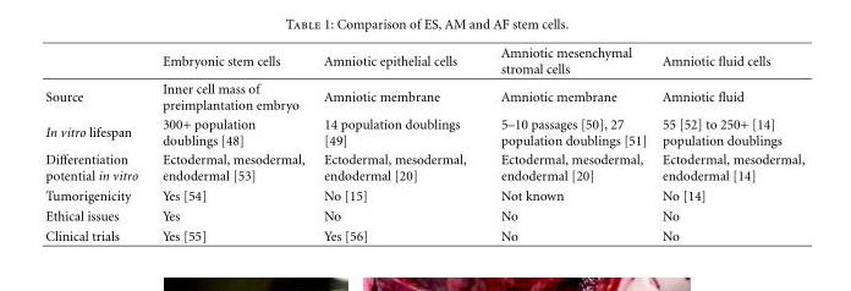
<table><thead><tr><td></td><td>Embryonic stem cells</td><td>Amniotic epithelial cells</td><td>Amniotic mesenchymal stromal cells</td><td>Amniotic fluid cells</td></tr></thead><tbody><tr><td>Source</td><td>Inner cell mass of preimplantation embryo</td><td>Amniotic membrane</td><td>Amniotic membrane</td><td>Amniotic fluid</td></tr><tr><td>In vitro lifespan</td><td>300+ population doublings [48]</td><td>14 population doublings [49]</td><td>5–10 passages [50], 27 population doublings [51]</td><td>55 [52] to 250+ [14] population doublings</td></tr><tr><td>Differentiation potential in vitro</td><td>Ectodermal, mesodermal, endodermal [53]</td><td>Ectodermal, mesodermal, endodermal [20]</td><td>Ectodermal, mesodermal, endodermal [20]</td><td>Ectodermal, mesodermal, endodermal [14]</td></tr><tr><td>Tumorigenicity</td><td>Yes [54]</td><td>No [15]</td><td>Not known</td><td>No [14]</td></tr><tr><td>Ethical issues</td><td>Yes</td><td>No</td><td>No</td><td>No</td></tr><tr><td>Clinical trials</td><td>Yes [55]</td><td>Yes [56]</td><td>No</td><td>No</td></tr></tbody></table>